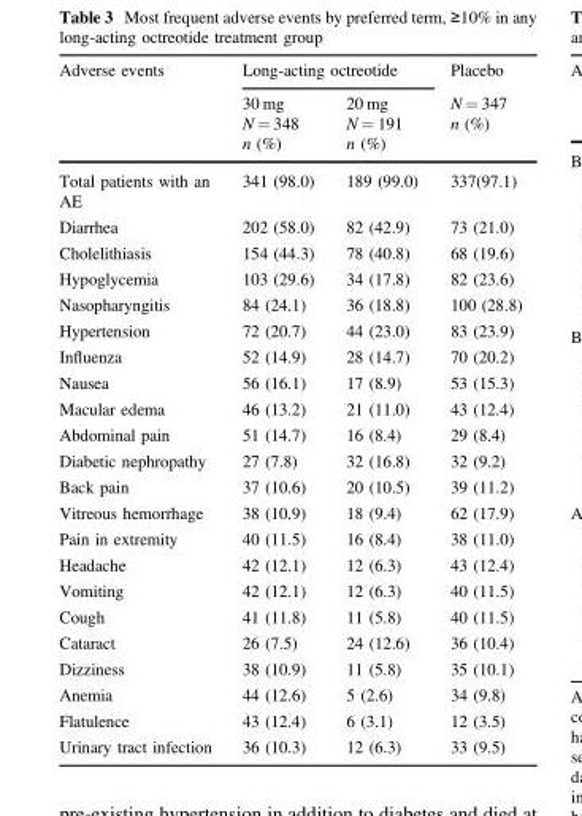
<table><thead><tr><td rowspan="2">Adverse events</td><td colspan="2">Long-acting octreotide</td><td rowspan="2">Placebo N = 347 n (%)</td></tr><tr><td>30 mg N = 348 n (%)</td><td>20 mg N = 191 n (%)</td></tr></thead><tbody><tr><td>Total patients with an AE</td><td>341 (98.0)</td><td>189 (99.0)</td><td>337(97.1)</td></tr><tr><td>Diarrhea</td><td>202 (58.0)</td><td>82 (42.9)</td><td>73 (21.0)</td></tr><tr><td>Cholelithiasis</td><td>154 (44.3)</td><td>78 (40.8)</td><td>68 (19.6)</td></tr><tr><td>Hypoglycemia</td><td>103 (29.6)</td><td>34 (17.8)</td><td>82 (23.6)</td></tr><tr><td>Nasopharyngitis</td><td>84 (24.1)</td><td>36 (18.8)</td><td>100 (28.8)</td></tr><tr><td>Hypertension</td><td>72 (20.7)</td><td>44 (23.0)</td><td>83 (23.9)</td></tr><tr><td>Influenza</td><td>52 (14.9)</td><td>28 (14.7)</td><td>70 (20.2)</td></tr><tr><td>Nausea</td><td>56 (16.1)</td><td>17 (8.9)</td><td>53 (15.3)</td></tr><tr><td>Macular edema</td><td>46 (13.2)</td><td>21 (11.0)</td><td>43 (12.4)</td></tr><tr><td>Abdominal pain</td><td>51 (14.7)</td><td>16 (8.4)</td><td>29 (8.4)</td></tr><tr><td>Diabetic nephropathy</td><td>27 (7.8)</td><td>32 (16.8)</td><td>32 (9.2)</td></tr><tr><td>Back pain</td><td>37 (10.6)</td><td>20 (10.5)</td><td>39 (11.2)</td></tr><tr><td>Vitreous hemorrhage</td><td>38 (10.9)</td><td>18 (9.4)</td><td>62 (17.9)</td></tr><tr><td>Pain in extremity</td><td>40 (11.5)</td><td>16 (8.4)</td><td>38 (11.0)</td></tr><tr><td>Headache</td><td>42 (12.1)</td><td>12 (6.3)</td><td>43 (12.4)</td></tr><tr><td>Vomiting</td><td>42 (12.1)</td><td>12 (6.3)</td><td>40 (11.5)</td></tr><tr><td>Cough</td><td>41 (11.8)</td><td>11 (5.8)</td><td>40 (11.5)</td></tr><tr><td>Cataract</td><td>26 (7.5)</td><td>24 (12.6)</td><td>36 (10.4)</td></tr><tr><td>Dizziness</td><td>38 (10.9)</td><td>11 (5.8)</td><td>35 (10.1)</td></tr><tr><td>Anemia</td><td>44 (12.6)</td><td>5 (2.6)</td><td>34 (9.8)</td></tr><tr><td>Flatulence</td><td>43 (12.4)</td><td>6 (3.1)</td><td>12 (3.5)</td></tr><tr><td>Urinary tract infection</td><td>36 (10.3)</td><td>12 (6.3)</td><td>33 (9.5)</td></tr></tbody></table>